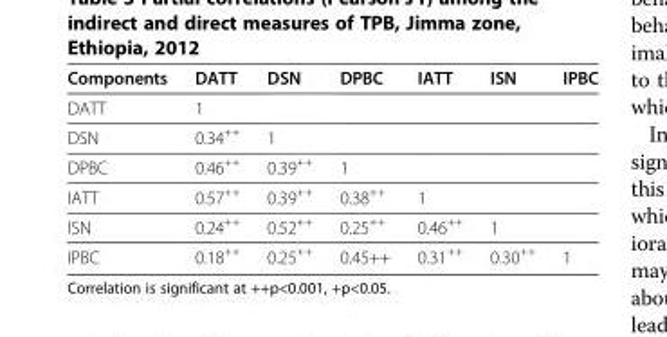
<table><thead><tr><td>Components</td><td>DATT</td><td>DSN</td><td>DPBC</td><td>IATT</td><td>ISN</td><td>IPBC</td></tr></thead><tbody><tr><td>DATT</td><td>1</td><td></td><td></td><td></td><td></td><td></td></tr><tr><td>DSN</td><td>0.34<sup>++</sup></td><td>1</td><td></td><td></td><td></td><td></td></tr><tr><td>DPBC</td><td>0.46<sup>++</sup></td><td>0.39<sup>++</sup></td><td>1</td><td></td><td></td><td></td></tr><tr><td>IATT</td><td>0.57<sup>++</sup></td><td>0.39<sup>++</sup></td><td>0.38<sup>++</sup></td><td>1</td><td></td><td></td></tr><tr><td>ISN</td><td>0.24<sup>++</sup></td><td>0.52<sup>++</sup></td><td>0.25<sup>++</sup></td><td>0.46<sup>++</sup></td><td>1</td><td></td></tr><tr><td>IPBC</td><td>0.18<sup>++</sup></td><td>0.25<sup>++</sup></td><td>0.45++</td><td>0.31<sup>++</sup></td><td>0.30<sup>++</sup></td><td>1</td></tr></tbody></table>